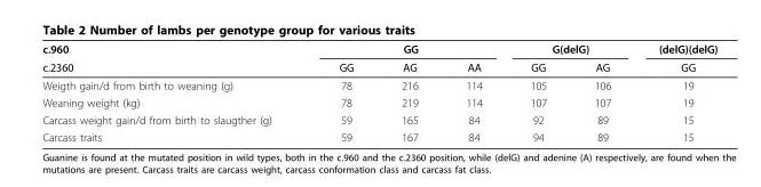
<table><thead><tr><td rowspan="2">c.960 c.2360</td><td colspan="3">GG</td><td colspan="2">G(delG)</td><td rowspan="2">(delG)(delG) GG</td></tr><tr><td>GG</td><td>AG</td><td>AA</td><td>GG</td><td>AG</td></tr></thead><tbody><tr><td>Weigth gain/d from birth to weaning (g)</td><td>78</td><td>216</td><td>114</td><td>105</td><td>106</td><td>19</td></tr><tr><td>Weaning weight (kg)</td><td>78</td><td>219</td><td>114</td><td>107</td><td>107</td><td>19</td></tr><tr><td>Carcass weight gain/d from birth to slaugther (g)</td><td>59</td><td>165</td><td>84</td><td>92</td><td>89</td><td>15</td></tr><tr><td>Carcass traits</td><td>59</td><td>167</td><td>84</td><td>94</td><td>89</td><td>15</td></tr></tbody></table>